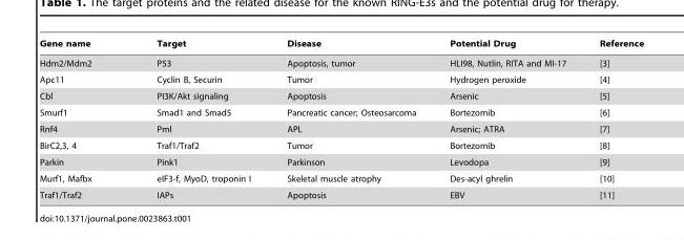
<table><thead><tr><td>Gene name</td><td>Target</td><td>Disease</td><td>Potential Drug</td><td>Reference</td></tr></thead><tbody><tr><td>Hdm2/Mdm2</td><td>P53</td><td>Apoptosis, tumor</td><td>HLI98, Nutlin, RITA and MI-17</td><td>[3]</td></tr><tr><td>Apc11</td><td>Cyclin B, Securin</td><td>Tumor</td><td>Hydrogen peroxide</td><td>[4]</td></tr><tr><td>Cbl</td><td>PI3K/Akt signaling</td><td>Apoptosis</td><td>Arsenic</td><td>[5]</td></tr><tr><td>Smurf1</td><td>Smad1 and Smad5</td><td>Pancreatic cancer; Osteosarcoma</td><td>Bortezomib</td><td>[6]</td></tr><tr><td>Rnf4</td><td>Pml</td><td>APL</td><td>Arsenic; ATRA</td><td>[7]</td></tr><tr><td>BirC2,3, 4</td><td>Traf1/Traf2</td><td>Tumor</td><td>Bortezomib</td><td>[8]</td></tr><tr><td>Parkin</td><td>Pink1</td><td>Parkinson</td><td>Levodopa</td><td>[9]</td></tr><tr><td>Murf1, Mafbx</td><td>eIF3-f, MyoD, troponin I</td><td>Skeletal muscle atrophy</td><td>Des-acyl ghrelin</td><td>[10]</td></tr><tr><td>Traf1/Traf2</td><td>IAPs</td><td>Apoptosis</td><td>EBV</td><td>[11]</td></tr></tbody></table>